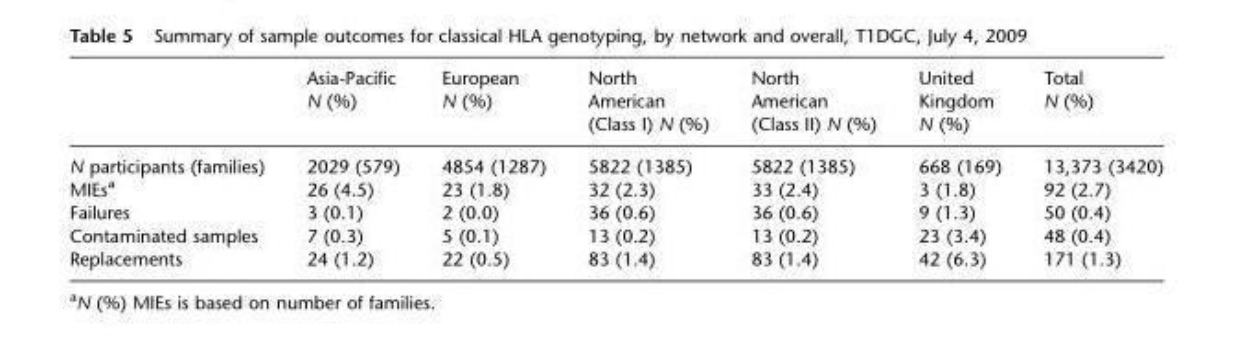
<table><thead><tr><td></td><td>Asia-Pacific N (%)</td><td>European N (%)</td><td>North American (Class I) N (%)</td><td>North American (Class II) N (%)</td><td>United Kingdom N (%)</td><td>Total N (%)</td></tr></thead><tbody><tr><td>N participants (families)</td><td>2029 (579)</td><td>4854 (1287)</td><td>5822 (1385)</td><td>5822 (1385)</td><td>668 (169)</td><td>13,373 (3420)</td></tr><tr><td>MIEs<sup>a</sup></td><td>26 (4.5)</td><td>23 (1.8)</td><td>32 (2.3)</td><td>33 (2.4)</td><td>3 (1.8)</td><td>92 (2.7)</td></tr><tr><td>Failures</td><td>3 (0.1)</td><td>2 (0.0)</td><td>36 (0.6)</td><td>36 (0.6)</td><td>9 (1.3)</td><td>50 (0.4)</td></tr><tr><td>Contaminated samples</td><td>7 (0.3)</td><td>5 (0.1)</td><td>13 (0.2)</td><td>13 (0.2)</td><td>23 (3.4)</td><td>48 (0.4)</td></tr><tr><td>Replacements</td><td>24 (1.2)</td><td>22 (0.5)</td><td>83 (1.4)</td><td>83 (1.4)</td><td>42 (6.3)</td><td>171 (1.3)</td></tr></tbody></table>